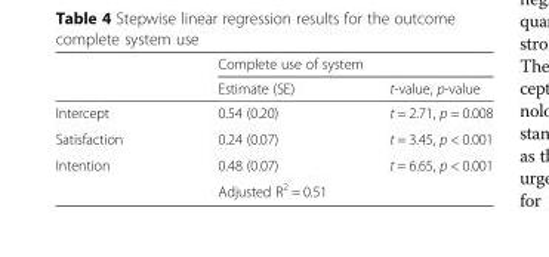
<table><thead><tr><td rowspan="2"></td><td colspan="2">Complete use of system</td></tr><tr><td>Estimate (SE)</td><td>t-value, p-value</td></tr></thead><tbody><tr><td>Intercept</td><td>0.54 (0.20)</td><td>t = 2.71, p = 0.008</td></tr><tr><td>Satisfaction</td><td>0.24 (0.07)</td><td>t = 3.45, p &lt; 0.001</td></tr><tr><td rowspan="2">Intention</td><td>0.48 (0.07)</td><td>t = 6.65, p &lt; 0.001</td></tr><tr><td colspan="2">Adjusted R<sup>2</sup> = 0.51</td></tr></tbody></table>